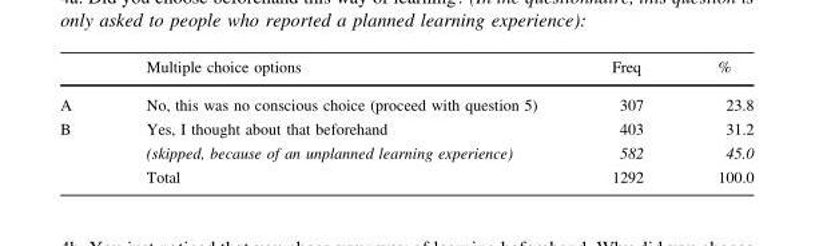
<table><thead><tr><td></td><td>Multiple choice options</td><td>Freq</td><td>%</td></tr></thead><tbody><tr><td>A</td><td>No, this was no conscious choice (proceed with question 5)</td><td>307</td><td>23.8</td></tr><tr><td rowspan="3">B</td><td>Yes, I thought about that beforehand</td><td>403</td><td>31.2</td></tr><tr><td>(skipped, because of an unplanned learning experience)</td><td>582</td><td>45.0</td></tr><tr><td>Total</td><td>1292</td><td>100.0</td></tr></tbody></table>